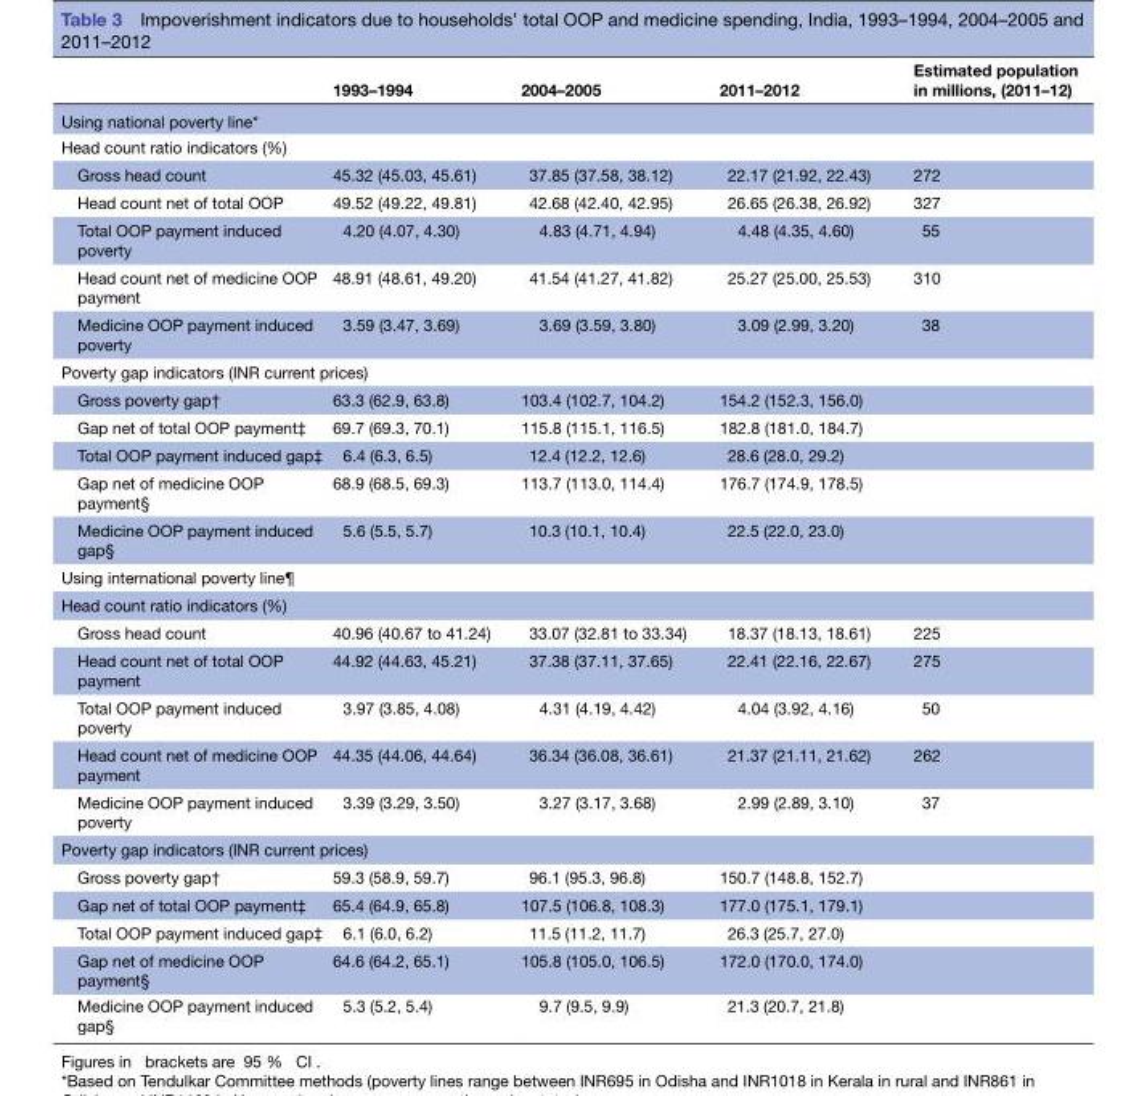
<table><thead><tr><td></td><td>1993–1994</td><td>2004–2005</td><td>2011–2012</td><td>Estimated population in millions, (2011–12)</td></tr></thead><tbody><tr><td colspan="5">Using national poverty line*</td></tr><tr><td colspan="5">Head count ratio indicators (%)</td></tr><tr><td>Gross head count</td><td>45.32 (45.03, 45.61)</td><td>37.85 (37.58, 38.12)</td><td>22.17 (21.92, 22.43)</td><td>272</td></tr><tr><td>Head count net of total OOP</td><td>49.52 (49.22, 49.81)</td><td>42.68 (42.40, 42.95)</td><td>26.65 (26.38, 26.92)</td><td>327</td></tr><tr><td>Total OOP payment induced poverty</td><td>4.20 (4.07, 4.30)</td><td>4.83 (4.71, 4.94)</td><td>4.48 (4.35, 4.60)</td><td>55</td></tr><tr><td>Head count net of medicine OOP payment</td><td>48.91 (48.61, 49.20)</td><td>41.54 (41.27, 41.82)</td><td>25.27 (25.00, 25.53)</td><td>310</td></tr><tr><td>Medicine OOP payment induced poverty</td><td>3.59 (3.47, 3.69)</td><td>3.69 (3.59, 3.80)</td><td>3.09 (2.99, 3.20)</td><td>38</td></tr><tr><td colspan="5">Poverty gap indicators (INR current prices)</td></tr><tr><td>Gross poverty gap†</td><td>63.3 (62.9, 63.8)</td><td>103.4 (102.7, 104.2)</td><td>154.2 (152.3, 156.0)</td><td></td></tr><tr><td>Gap net of total OOP payment‡</td><td>69.7 (69.3, 70.1)</td><td>115.8 (115.1, 116.5)</td><td>182.8 (181.0, 184.7)</td><td></td></tr><tr><td>Total OOP payment induced gap‡</td><td>6.4 (6.3, 6.5)</td><td>12.4 (12.2, 12.6)</td><td>28.6 (28.0, 29.2)</td><td></td></tr><tr><td>Gap net of medicine OOP payment§</td><td>68.9 (68.5, 69.3)</td><td>113.7 (113.0, 114.4)</td><td>176.7 (174.9, 178.5)</td><td></td></tr><tr><td>Medicine OOP payment induced gap§</td><td>5.6 (5.5, 5.7)</td><td>10.3 (10.1, 10.4)</td><td>22.5 (22.0, 23.0)</td><td></td></tr><tr><td colspan="5">Using international poverty line¶</td></tr><tr><td colspan="5">Head count ratio indicators (%)</td></tr><tr><td>Gross head count</td><td>40.96 (40.67 to 41.24)</td><td>33.07 (32.81 to 33.34)</td><td>18.37 (18.13, 18.61)</td><td>225</td></tr><tr><td>Head count net of total OOP payment</td><td>44.92 (44.63, 45.21)</td><td>37.38 (37.11, 37.65)</td><td>22.41 (22.16, 22.67)</td><td>275</td></tr><tr><td>Total OOP payment induced poverty</td><td>3.97 (3.85, 4.08)</td><td>4.31 (4.19, 4.42)</td><td>4.04 (3.92, 4.16)</td><td>50</td></tr><tr><td>Head count net of medicine OOP payment</td><td>44.35 (44.06, 44.64)</td><td>36.34 (36.08, 36.61)</td><td>21.37 (21.11, 21.62)</td><td>262</td></tr><tr><td>Medicine OOP payment induced poverty</td><td>3.39 (3.29, 3.50)</td><td>3.27 (3.17, 3.68)</td><td>2.99 (2.89, 3.10)</td><td>37</td></tr><tr><td colspan="5">Poverty gap indicators (INR current prices)</td></tr><tr><td>Gross poverty gap†</td><td>59.3 (58.9, 59.7)</td><td>96.1 (95.3, 96.8)</td><td>150.7 (148.8, 152.7)</td><td></td></tr><tr><td>Gap net of total OOP payment‡</td><td>65.4 (64.9, 65.8)</td><td>107.5 (106.8, 108.3)</td><td>177.0 (175.1, 179.1)</td><td></td></tr><tr><td>Total OOP payment induced gap‡</td><td>6.1 (6.0, 6.2)</td><td>11.5 (11.2, 11.7)</td><td>26.3 (25.7, 27.0)</td><td></td></tr><tr><td>Gap net of medicine OOP payment§</td><td>64.6 (64.2, 65.1)</td><td>105.8 (105.0, 106.5)</td><td>172.0 (170.0, 174.0)</td><td></td></tr><tr><td>Medicine OOP payment induced gap§</td><td>5.3 (5.2, 5.4)</td><td>9.7 (9.5, 9.9)</td><td>21.3 (20.7, 21.8)</td><td></td></tr></tbody></table>